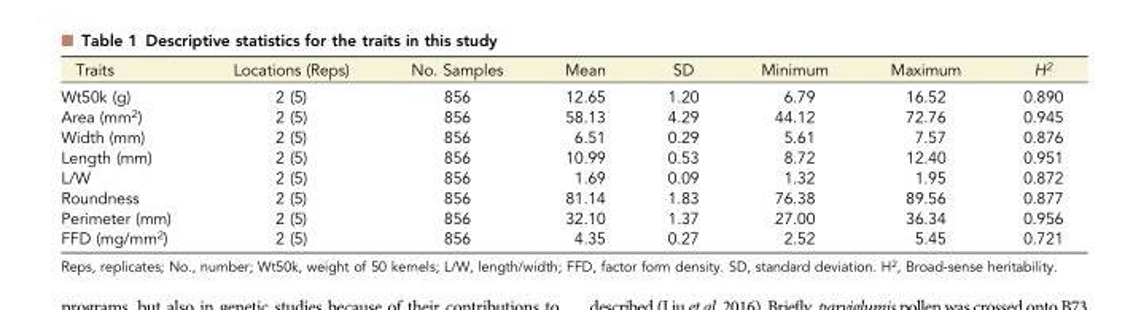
<table><thead><tr><td>Traits</td><td>Locations (Reps)</td><td>No. Samples</td><td>Mean</td><td>SD</td><td>Minimum</td><td>Maximum</td><td>H<sup>2</sup></td></tr></thead><tbody><tr><td>Wt50k (g)</td><td>2 (5)</td><td>856</td><td>12.65</td><td>1.20</td><td>6.79</td><td>16.52</td><td>0.890</td></tr><tr><td>Area (mm<sup>2</sup>)</td><td>2 (5)</td><td>856</td><td>58.13</td><td>4.29</td><td>44.12</td><td>72.76</td><td>0.945</td></tr><tr><td>Width (mm)</td><td>2 (5)</td><td>856</td><td>6.51</td><td>0.29</td><td>5.61</td><td>7.57</td><td>0.876</td></tr><tr><td>Length (mm)</td><td>2 (5)</td><td>856</td><td>10.99</td><td>0.53</td><td>8.72</td><td>12.40</td><td>0.951</td></tr><tr><td>L/W</td><td>2 (5)</td><td>856</td><td>1.69</td><td>0.09</td><td>1.32</td><td>1.95</td><td>0.872</td></tr><tr><td>Roundness</td><td>2 (5)</td><td>856</td><td>81.14</td><td>1.83</td><td>76.38</td><td>89.56</td><td>0.877</td></tr><tr><td>Perimeter (mm)</td><td>2 (5)</td><td>856</td><td>32.10</td><td>1.37</td><td>27.00</td><td>36.34</td><td>0.956</td></tr><tr><td>FFD (mg/mm<sup>2</sup>)</td><td>2 (5)</td><td>856</td><td>4.35</td><td>0.27</td><td>2.52</td><td>5.45</td><td>0.721</td></tr></tbody></table>